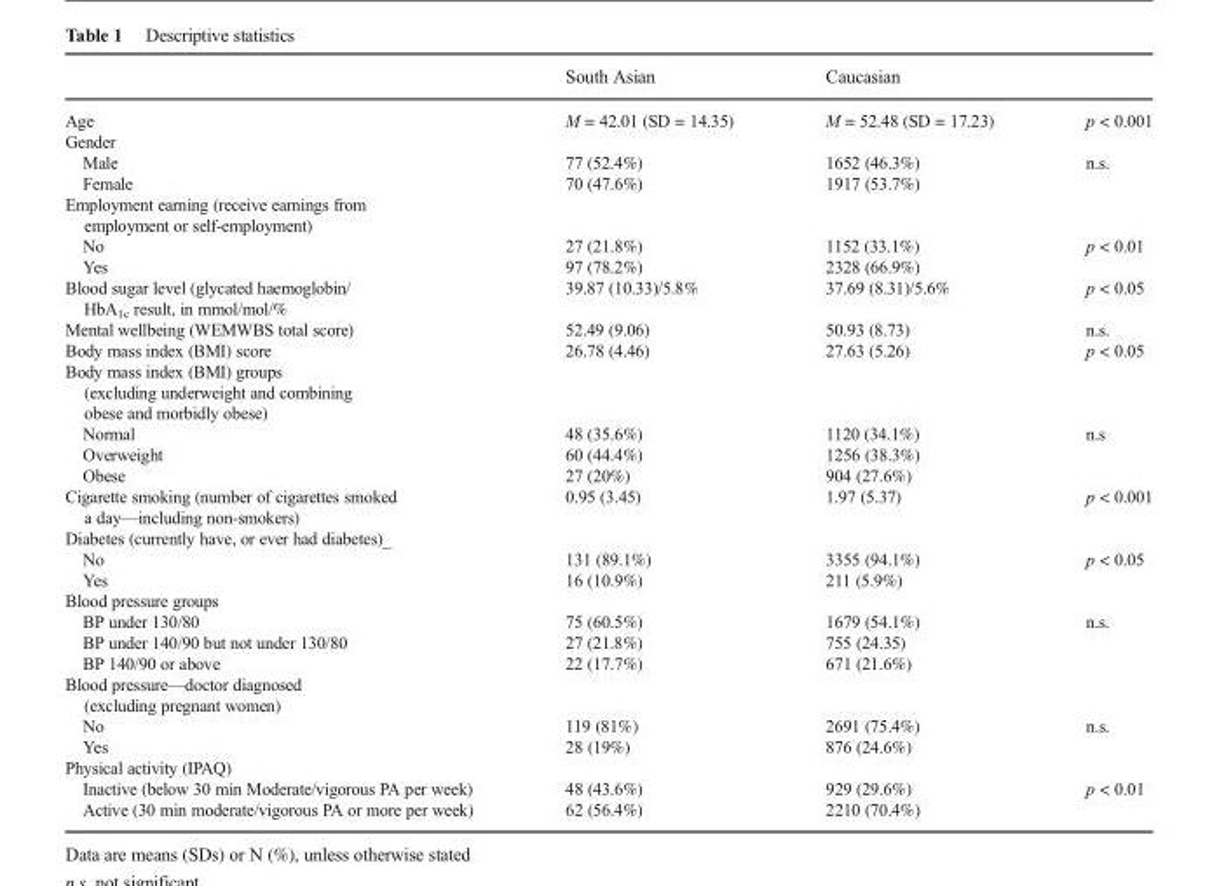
<table><thead><tr><td></td><td>South Asian</td><td>Caucasian</td><td></td></tr></thead><tbody><tr><td>Age</td><td>M = 42.01 (SD = 14.35)</td><td>M = 52.48 (SD = 17.23)</td><td>p &lt; 0.001</td></tr><tr><td colspan="4">Gender</td></tr><tr><td>Male</td><td>77 (52.4%)</td><td>1652 (46.3%)</td><td>n.s.</td></tr><tr><td>Female</td><td>70 (47.6%)</td><td>1917 (53.7%)</td><td></td></tr><tr><td colspan="4">Employment earning (receive earnings from employment or self-employment)</td></tr><tr><td>No</td><td>27 (21.8%)</td><td>1152 (33.1%)</td><td>p &lt; 0.01</td></tr><tr><td>Yes</td><td>97 (78.2%)</td><td>2328 (66.9%)</td><td></td></tr><tr><td>Blood sugar level (glycated haemoglobin/ HbA<sub>1c</sub> result, in mmol/mol/%</td><td>39.87 (10.33)/5.8%</td><td>37.69 (8.31)/5.6%</td><td>p &lt; 0.05</td></tr><tr><td>Mental wellbeing (WEMWBS total score)</td><td>52.49 (9.06)</td><td>50.93 (8.73)</td><td>n.s.</td></tr><tr><td>Body mass index (BMI) score</td><td>26.78 (4.46)</td><td>27.63 (5.26)</td><td>p &lt; 0.05</td></tr><tr><td colspan="4">Body mass index (BMI) groups (excluding underweight and combining obese and morbidly obese)</td></tr><tr><td>Normal</td><td>48 (35.6%)</td><td>1120 (34.1%)</td><td>n.s</td></tr><tr><td>Overweight</td><td>60 (44.4%)</td><td>1256 (38.3%)</td><td></td></tr><tr><td>Obese</td><td>27 (20%)</td><td>904 (27.6%)</td><td></td></tr><tr><td>Cigarette smoking (number of cigarettes smoked a day—including non-smokers)</td><td>0.95 (3.45)</td><td>1.97 (5.37)</td><td>p &lt; 0.001</td></tr><tr><td colspan="4">Diabetes (currently have, or ever had diabetes)_</td></tr><tr><td>No</td><td>131 (89.1%)</td><td>3355 (94.1%)</td><td>p &lt; 0.05</td></tr><tr><td>Yes</td><td>16 (10.9%)</td><td>211 (5.9%)</td><td></td></tr><tr><td colspan="4">Blood pressure groups</td></tr><tr><td>BP under 130/80</td><td>75 (60.5%)</td><td>1679 (54.1%)</td><td>n.s.</td></tr><tr><td>BP under 140/90 but not under 130/80</td><td>27 (21.8%)</td><td>755 (24.35)</td><td></td></tr><tr><td>BP 140/90 or above</td><td>22 (17.7%)</td><td>671 (21.6%)</td><td></td></tr><tr><td colspan="4">Blood pressure—doctor diagnosed (excluding pregnant women)</td></tr><tr><td>No</td><td>119 (81%)</td><td>2691 (75.4%)</td><td>n.s.</td></tr><tr><td>Yes</td><td>28 (19%)</td><td>876 (24.6%)</td><td></td></tr><tr><td colspan="4">Physical activity (IPAQ)</td></tr><tr><td>Inactive (below 30 min Moderate/vigorous PA per week)</td><td>48 (43.6%)</td><td>929 (29.6%)</td><td>p &lt; 0.01</td></tr><tr><td>Active (30 min moderate/vigorous PA or more per week)</td><td>62 (56.4%)</td><td>2210 (70.4%)</td><td></td></tr></tbody></table>